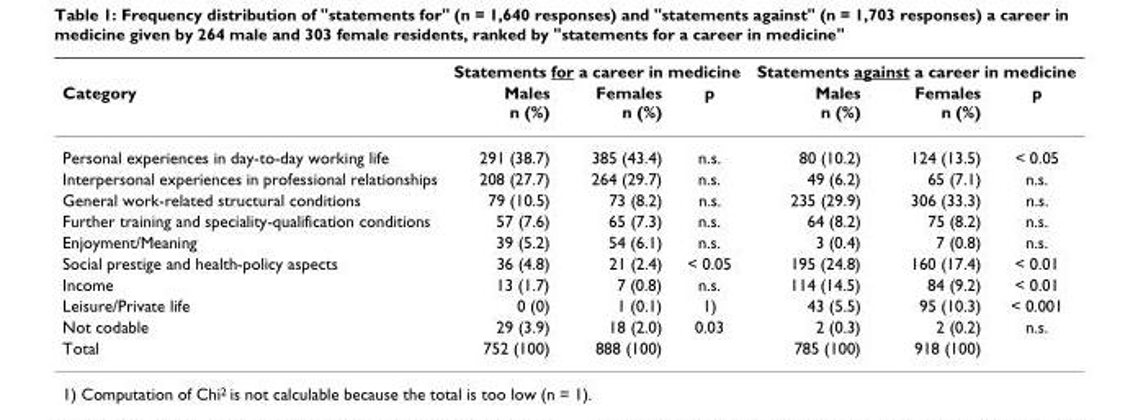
<table><thead><tr><td rowspan="2">Category</td><td colspan="3">Statements for a career in medicine</td><td colspan="3">Statements against a career in medicine</td></tr><tr><td>Males n (%)</td><td>Females n (%)</td><td>p</td><td>Males n (%)</td><td>Females n (%)</td><td>p</td></tr></thead><tbody><tr><td>Personal experiences in day-to-day working life</td><td>291 (38.7)</td><td>385 (43.4)</td><td>n.s.</td><td>80 (10.2)</td><td>124 (13.5)</td><td>&lt; 0.05</td></tr><tr><td>Interpersonal experiences in professional relationships</td><td>208 (27.7)</td><td>264 (29.7)</td><td>n.s.</td><td>49 (6.2)</td><td>65 (7.1)</td><td>n.s.</td></tr><tr><td>General work-related structural conditions</td><td>79 (10.5)</td><td>73 (8.2)</td><td>n.s.</td><td>235 (29.9)</td><td>306 (33.3)</td><td>n.s.</td></tr><tr><td>Further training and speciality-qualification conditions</td><td>57 (7.6)</td><td>65 (7.3)</td><td>n.s.</td><td>64 (8.2)</td><td>75 (8.2)</td><td>n.s.</td></tr><tr><td>Enjoyment/Meaning</td><td>39 (5.2)</td><td>54 (6.1)</td><td>n.s.</td><td>3 (0.4)</td><td>7 (0.8)</td><td>n.s.</td></tr><tr><td>Social prestige and health-policy aspects</td><td>36 (4.8)</td><td>21 (2.4)</td><td>&lt; 0.05</td><td>195 (24.8)</td><td>160 (17.4)</td><td>&lt; 0.01</td></tr><tr><td>Income</td><td>13 (1.7)</td><td>7 (0.8)</td><td>n.s.</td><td>114 (14.5)</td><td>84 (9.2)</td><td>&lt; 0.01</td></tr><tr><td>Leisure/Private life</td><td>0 (0)</td><td>1 (0.1)</td><td>1)</td><td>43 (5.5)</td><td>95 (10.3)</td><td>&lt; 0.001</td></tr><tr><td>Not codable</td><td>29 (3.9)</td><td>18 (2.0)</td><td>0.03</td><td>2 (0.3)</td><td>2 (0.2)</td><td>n.s.</td></tr><tr><td>Total</td><td>752 (100)</td><td>888 (100)</td><td></td><td>785 (100)</td><td>918 (100)</td><td></td></tr></tbody></table>